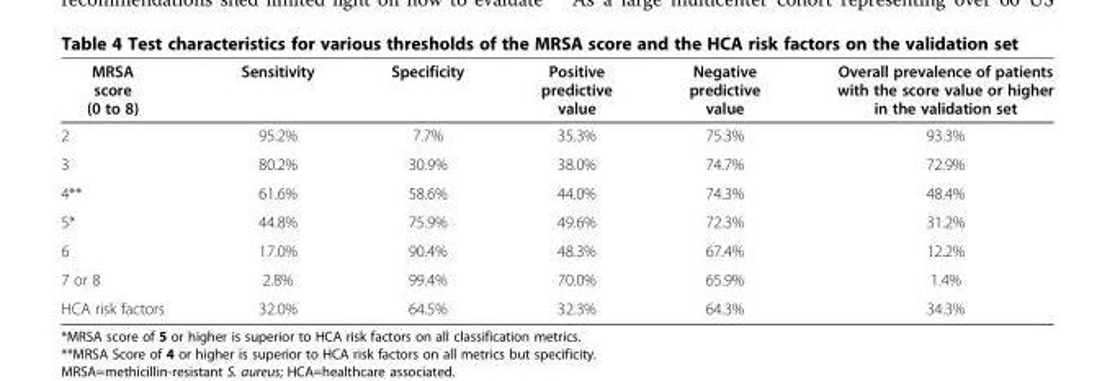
<table><thead><tr><td>MRSA score (0 to 8)</td><td>Sensitivity</td><td>Specificity</td><td>Positive predictive value</td><td>Negative predictive value</td><td>Overall prevalence of patients with the score value or higher in the validation set</td></tr></thead><tbody><tr><td>2</td><td>95.2%</td><td>7.7%</td><td>35.3%</td><td>75.3%</td><td>93.3%</td></tr><tr><td>3</td><td>80.2%</td><td>30.9%</td><td>38.0%</td><td>74.7%</td><td>72.9%</td></tr><tr><td>4**</td><td>61.6%</td><td>58.6%</td><td>44.0%</td><td>74.3%</td><td>48.4%</td></tr><tr><td>5*</td><td>44.8%</td><td>75.9%</td><td>49.6%</td><td>72.3%</td><td>31.2%</td></tr><tr><td>6</td><td>17.0%</td><td>90.4%</td><td>48.3%</td><td>67.4%</td><td>12.2%</td></tr><tr><td>7 or 8</td><td>2.8%</td><td>99.4%</td><td>70.0%</td><td>65.9%</td><td>1.4%</td></tr><tr><td>HCA risk factors</td><td>32.0%</td><td>64.5%</td><td>32.3%</td><td>64.3%</td><td>34.3%</td></tr></tbody></table>